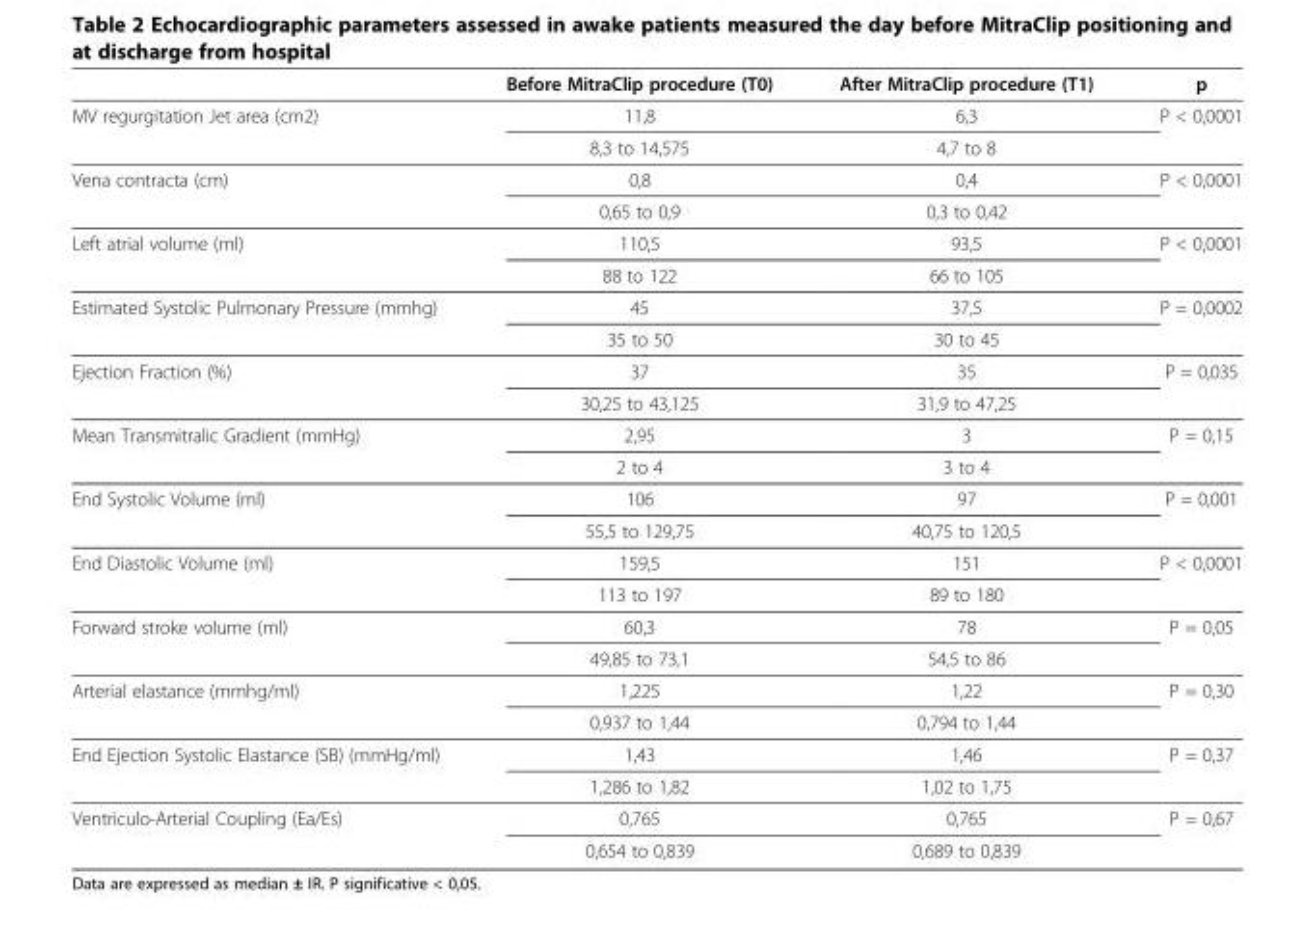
<table><thead><tr><td></td><td>Before MitraClip procedure (T0)</td><td>After MitraClip procedure (T1)</td><td>p</td></tr></thead><tbody><tr><td rowspan="2">MV regurgitation Jet area (cm2)</td><td>11,8</td><td>6,3</td><td rowspan="2">P &lt; 0,0001</td></tr><tr><td>8,3 to 14,575</td><td>4,7 to 8</td></tr><tr><td rowspan="2">Vena contracta (cm)</td><td>0,8</td><td>0,4</td><td rowspan="2">P &lt; 0,0001</td></tr><tr><td>0,65 to 0,9</td><td>0,3 to 0,42</td></tr><tr><td rowspan="2">Left atrial volume (ml)</td><td>110,5</td><td>93,5</td><td rowspan="2">P &lt; 0,0001</td></tr><tr><td>88 to 122</td><td>66 to 105</td></tr><tr><td rowspan="2">Estimated Systolic Pulmonary Pressure (mmhg)</td><td>45</td><td>37,5</td><td rowspan="2">P = 0,0002</td></tr><tr><td>35 to 50</td><td>30 to 45</td></tr><tr><td rowspan="2">Ejection Fraction (%)</td><td>37</td><td>35</td><td rowspan="2">P = 0,035</td></tr><tr><td>30,25 to 43,125</td><td>31,9 to 47,25</td></tr><tr><td rowspan="2">Mean Transmitralic Gradient (mmHg)</td><td>2,95</td><td>3</td><td rowspan="2">P = 0,15</td></tr><tr><td>2 to 4</td><td>3 to 4</td></tr><tr><td rowspan="2">End Systolic Volume (ml)</td><td>106</td><td>97</td><td rowspan="2">P = 0,001</td></tr><tr><td>55,5 to 129,75</td><td>40,75 to 120,5</td></tr><tr><td rowspan="2">End Diastolic Volume (ml)</td><td>159,5</td><td>151</td><td rowspan="2">P &lt; 0,0001</td></tr><tr><td>113 to 197</td><td>89 to 180</td></tr><tr><td rowspan="2">Forward stroke volume (ml)</td><td>60,3</td><td>78</td><td rowspan="2">P = 0,05</td></tr><tr><td>49,85 to 73,1</td><td>54,5 to 86</td></tr><tr><td rowspan="2">Arterial elastance (mmhg/ml)</td><td>1,225</td><td>1,22</td><td rowspan="2">P = 0,30</td></tr><tr><td>0,937 to 1,44</td><td>0,794 to 1,44</td></tr><tr><td rowspan="2">End Ejection Systolic Elastance (SB) (mmHg/ml)</td><td>1,43</td><td>1,46</td><td rowspan="2">P = 0,37</td></tr><tr><td>1,286 to 1,82</td><td>1,02 to 1,75</td></tr><tr><td rowspan="2">Ventriculo-Arterial Coupling (Ea/Es)</td><td>0,765</td><td>0,765</td><td rowspan="2">P = 0,67</td></tr><tr><td>0,654 to 0,839</td><td>0,689 to 0,839</td></tr></tbody></table>